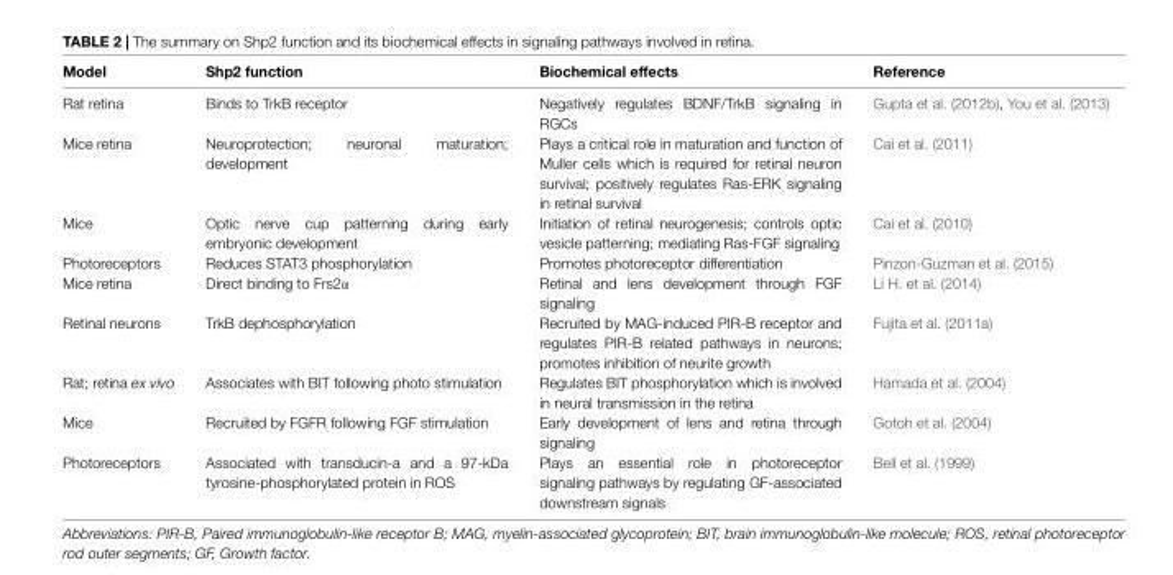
<table><thead><tr><td>Model</td><td>Shp2 function</td><td>Biochemical effects</td><td>Reference</td></tr></thead><tbody><tr><td>Rat retina</td><td>Binds to TrkB receptor</td><td>Negatively regulates BDNF/TrkB signaling in RGCs</td><td>Gupta et al. (2012b), You et al. (2013)</td></tr><tr><td>Mice retina</td><td>Neuroprotection; neuronal maturation; development</td><td>Plays a critical role in maturation and function of Muller cells which is required for retinal neuron survival; positively regulates Ras-ERK signaling in retinal survival</td><td>Cai et al. (2011)</td></tr><tr><td>Mice</td><td>Optic nerve cup patterning during early embryonic development</td><td>Initiation of retinal neurogenesis; controls optic vesicle patterning; mediating Ras-FGF signaling</td><td>Cai et al. (2010)</td></tr><tr><td>Photoreceptors</td><td>Reduces STAT3 phosphorylation</td><td>Promotes photoreceptor differentiation</td><td>Pinzon-Guzman et al. (2015)</td></tr><tr><td>Mice retina</td><td>Direct binding to Frs2α</td><td>Retinal and lens development through FGF signaling</td><td>Li H. et al. (2014)</td></tr><tr><td>Retinal neurons</td><td>TrkB dephosphorylation</td><td>Recruited by MAG-induced PIR-B receptor and regulates PIR-B related pathways in neurons; promotes inhibition of neurite growth</td><td>Fujita et al. (2011a)</td></tr><tr><td>Rat; retina ex vivo</td><td>Associates with BIT following photo stimulation</td><td>Regulates BIT phosphorylation which is involved in neural transmission in the retina</td><td>Hamada et al. (2004)</td></tr><tr><td>Mice</td><td>Recruited by FGFR following FGF stimulation</td><td>Early development of lens and retina through signaling</td><td>Gotoh et al. (2004)</td></tr><tr><td>Photoreceptors</td><td>Associated with transducin-a and a 97-kDa tyrosine-phosphorylated protein in ROS</td><td>Plays an essential role in photoreceptor signaling pathways by regulating GF-associated downstream signals</td><td>Bell et al. (1999)</td></tr></tbody></table>